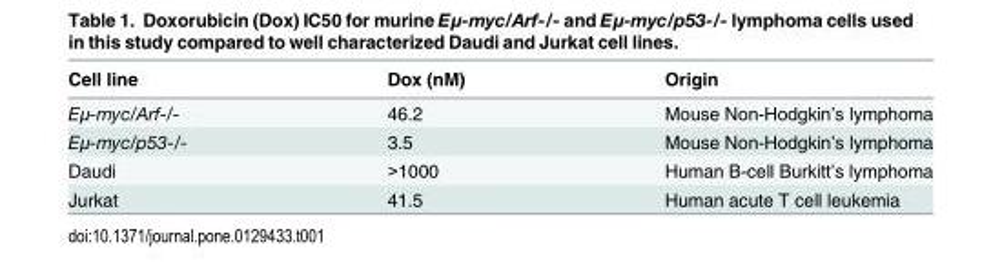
<table><thead><tr><td>Cell line</td><td>Dox (nM)</td><td>Origin</td></tr></thead><tbody><tr><td>Eμ-myc/Arf-/-</td><td>46.2</td><td>Mouse Non-Hodgkin’s lymphoma</td></tr><tr><td>Eμ-myc/p53-/-</td><td>3.5</td><td>Mouse Non-Hodgkin’s lymphoma</td></tr><tr><td>Daudi</td><td>&gt;1000</td><td>Human B-cell Burkitt’s lymphoma</td></tr><tr><td>Jurkat</td><td>41.5</td><td>Human acute T cell leukemia</td></tr></tbody></table>